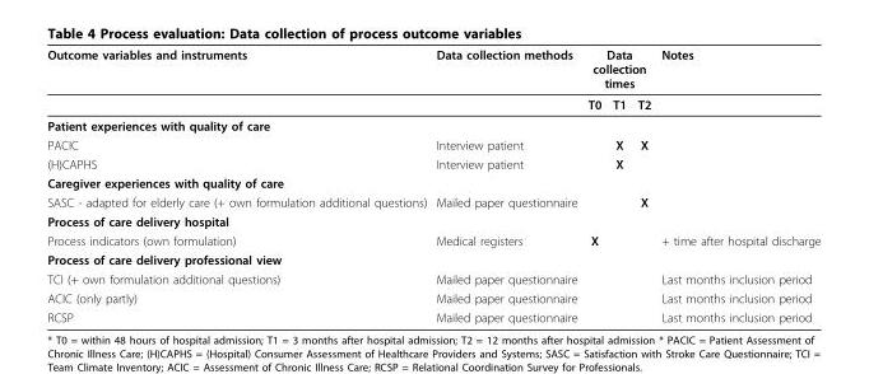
<table><thead><tr><td rowspan="2">Outcome variables and instruments</td><td rowspan="2">Data collection methods</td><td colspan="3">Data collection times</td><td rowspan="2">Notes</td></tr><tr><td>T0</td><td>T1</td><td>T2</td></tr></thead><tbody><tr><td colspan="6">Patient experiences with quality of care</td></tr><tr><td>PACIC</td><td>Interview patient</td><td></td><td>X</td><td>X</td><td></td></tr><tr><td>(H)CAPHS</td><td>Interview patient</td><td></td><td>X</td><td></td><td></td></tr><tr><td colspan="6">Caregiver experiences with quality of care</td></tr><tr><td>SASC - adapted for elderly care (+ own formulation additional questions)</td><td>Mailed paper questionnaire</td><td></td><td></td><td>X</td><td></td></tr><tr><td colspan="6">Process of care delivery hospital</td></tr><tr><td>Process indicators (own formulation)</td><td>Medical registers</td><td>X</td><td></td><td></td><td>+ time after hospital discharge</td></tr><tr><td colspan="6">Process of care delivery professional view</td></tr><tr><td>TCI (+ own formulation additional questions)</td><td>Mailed paper questionnaire</td><td></td><td></td><td></td><td>Last months inclusion period</td></tr><tr><td>ACIC (only partly)</td><td>Mailed paper questionnaire</td><td></td><td></td><td></td><td>Last months inclusion period</td></tr><tr><td>RCSP</td><td>Mailed paper questionnaire</td><td></td><td></td><td></td><td>Last months inclusion period</td></tr></tbody></table>